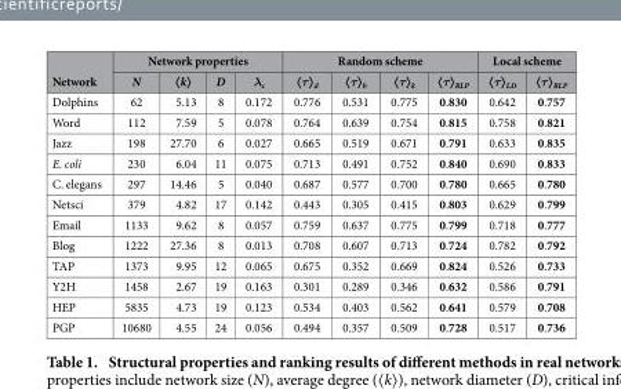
<table><thead><tr><td rowspan="2">Network</td><td colspan="4">Network properties</td><td colspan="4">Random scheme</td><td colspan="2">Local scheme</td></tr><tr><td>N</td><td>〈k〉</td><td>D</td><td>λ<sub>c</sub></td><td>〈τ〉<sub>d</sub></td><td>〈τ〉<sub>b</sub></td><td>〈τ〉<sub>k</sub></td><td>〈τ〉<sub>RLP</sub></td><td>〈τ〉<sub>LD</sub></td><td>〈τ〉<sub>RLP</sub></td></tr></thead><tbody><tr><td>Dolphins</td><td>62</td><td>5.13</td><td>8</td><td>0.172</td><td>0.776</td><td>0.531</td><td>0.775</td><td>0.830</td><td>0.642</td><td>0.757</td></tr><tr><td>Word</td><td>112</td><td>7.59</td><td>5</td><td>0.078</td><td>0.764</td><td>0.639</td><td>0.754</td><td>0.815</td><td>0.758</td><td>0.821</td></tr><tr><td>Jazz</td><td>198</td><td>27.70</td><td>6</td><td>0.027</td><td>0.665</td><td>0.519</td><td>0.671</td><td>0.791</td><td>0.633</td><td>0.835</td></tr><tr><td>E. coli</td><td>230</td><td>6.04</td><td>11</td><td>0.075</td><td>0.713</td><td>0.491</td><td>0.752</td><td>0.840</td><td>0.690</td><td>0.833</td></tr><tr><td>C. elegans</td><td>297</td><td>14.46</td><td>5</td><td>0.040</td><td>0.687</td><td>0.577</td><td>0.700</td><td>0.780</td><td>0.665</td><td>0.780</td></tr><tr><td>Netsci</td><td>379</td><td>4.82</td><td>17</td><td>0.142</td><td>0.443</td><td>0.305</td><td>0.415</td><td>0.803</td><td>0.629</td><td>0.799</td></tr><tr><td>Email</td><td>1133</td><td>9.62</td><td>8</td><td>0.057</td><td>0.759</td><td>0.637</td><td>0.775</td><td>0.799</td><td>0.718</td><td>0.777</td></tr><tr><td>Blog</td><td>1222</td><td>27.36</td><td>8</td><td>0.013</td><td>0.708</td><td>0.607</td><td>0.713</td><td>0.724</td><td>0.782</td><td>0.792</td></tr><tr><td>TAP</td><td>1373</td><td>9.95</td><td>12</td><td>0.065</td><td>0.675</td><td>0.352</td><td>0.669</td><td>0.824</td><td>0.526</td><td>0.733</td></tr><tr><td>Y2H</td><td>1458</td><td>2.67</td><td>19</td><td>0.163</td><td>0.301</td><td>0.289</td><td>0.346</td><td>0.632</td><td>0.586</td><td>0.791</td></tr><tr><td>HEP</td><td>5835</td><td>4.73</td><td>19</td><td>0.123</td><td>0.534</td><td>0.403</td><td>0.562</td><td>0.641</td><td>0.579</td><td>0.708</td></tr><tr><td>PGP</td><td>10680</td><td>4.55</td><td>24</td><td>0.056</td><td>0.494</td><td>0.357</td><td>0.509</td><td>0.728</td><td>0.517</td><td>0.736</td></tr></tbody></table>